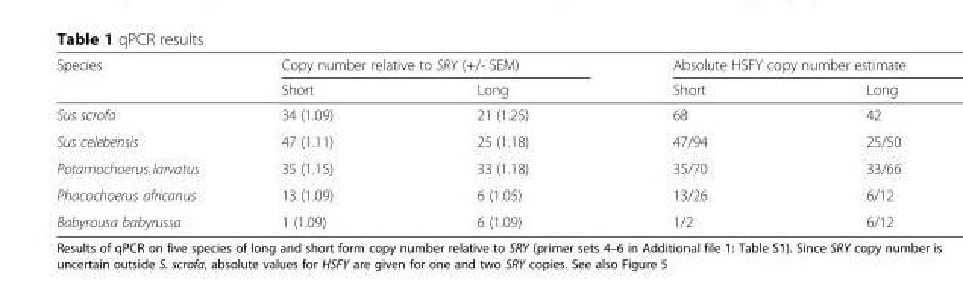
<table><thead><tr><td rowspan="2">Species</td><td colspan="2">Copy number relative to SRY (+/- SEM)</td><td colspan="2">Absolute HSFY copy number estimate</td></tr><tr><td>Short</td><td>Long</td><td>Short</td><td>Long</td></tr></thead><tbody><tr><td>Sus scrofa</td><td>34 (1.09)</td><td>21 (1.25)</td><td>68</td><td>42</td></tr><tr><td>Sus celebensis</td><td>47 (1.11)</td><td>25 (1.18)</td><td>47/94</td><td>25/50</td></tr><tr><td>Potamochoerus larvatus</td><td>35 (1.15)</td><td>33 (1.18)</td><td>35/70</td><td>33/66</td></tr><tr><td>Phacochoerus africanus</td><td>13 (1.09)</td><td>6 (1.05)</td><td>13/26</td><td>6/12</td></tr><tr><td>Babyrousa babyrussa</td><td>1 (1.09)</td><td>6 (1.09)</td><td>1/2</td><td>6/12</td></tr></tbody></table>